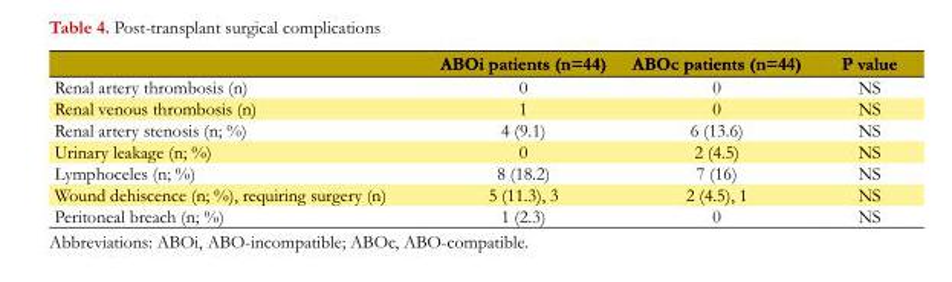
<table><thead><tr><td></td><td>ABOi patients (n=44)</td><td>ABOc patients (n=44)</td><td>P value</td></tr></thead><tbody><tr><td>Renal artery thrombosis (n)</td><td>0</td><td>0</td><td>NS</td></tr><tr><td>Renal venous thrombosis (n)</td><td>1</td><td>0</td><td>NS</td></tr><tr><td>Renal artery stenosis (n; %)</td><td>4 (9.1)</td><td>6 (13.6)</td><td>NS</td></tr><tr><td>Urinary leakage (n; %)</td><td>0</td><td>2 (4.5)</td><td>NS</td></tr><tr><td>Lymphoceles (n; %)</td><td>8 (18.2)</td><td>7 (16)</td><td>NS</td></tr><tr><td>Wound dehiscence (n; %), requiring surgery (n)</td><td>5 (11.3), 3</td><td>2 (4.5), 1</td><td>NS</td></tr><tr><td>Peritoneal breach (n; %)</td><td>1 (2.3)</td><td>0</td><td>NS</td></tr></tbody></table>